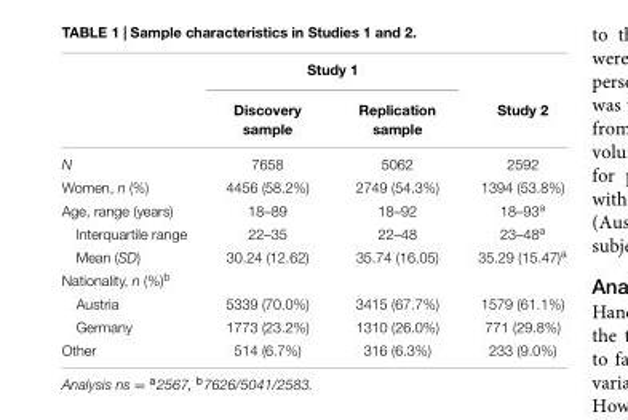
<table><thead><tr><td rowspan="2"></td><td colspan="2">Study 1</td><td rowspan="2">Study 2</td></tr><tr><td>Discovery sample</td><td>Replication sample</td></tr></thead><tbody><tr><td>N</td><td>7658</td><td>5062</td><td>2592</td></tr><tr><td>Women, n (%)</td><td>4456 (58.2%)</td><td>2749 (54.3%)</td><td>1394 (53.8%)</td></tr><tr><td>Age, range (years)</td><td>18–89</td><td>18–92</td><td>18–93<sup>a</sup></td></tr><tr><td>Interquartile range</td><td>22–35</td><td>22–48</td><td>23–48<sup>a</sup></td></tr><tr><td>Mean (SD)</td><td>30.24 (12.62)</td><td>35.74 (16.05)</td><td>35.29 (15.47)<sup>a</sup></td></tr><tr><td colspan="4">Nationality, n (%)<sup>b</sup></td></tr><tr><td>Austria</td><td>5339 (70.0%)</td><td>3415 (67.7%)</td><td>1579 (61.1%)</td></tr><tr><td>Germany</td><td>1773 (23.2%)</td><td>1310 (26.0%)</td><td>771 (29.8%)</td></tr><tr><td>Other</td><td>514 (6.7%)</td><td>316 (6.3%)</td><td>233 (9.0%)</td></tr></tbody></table>